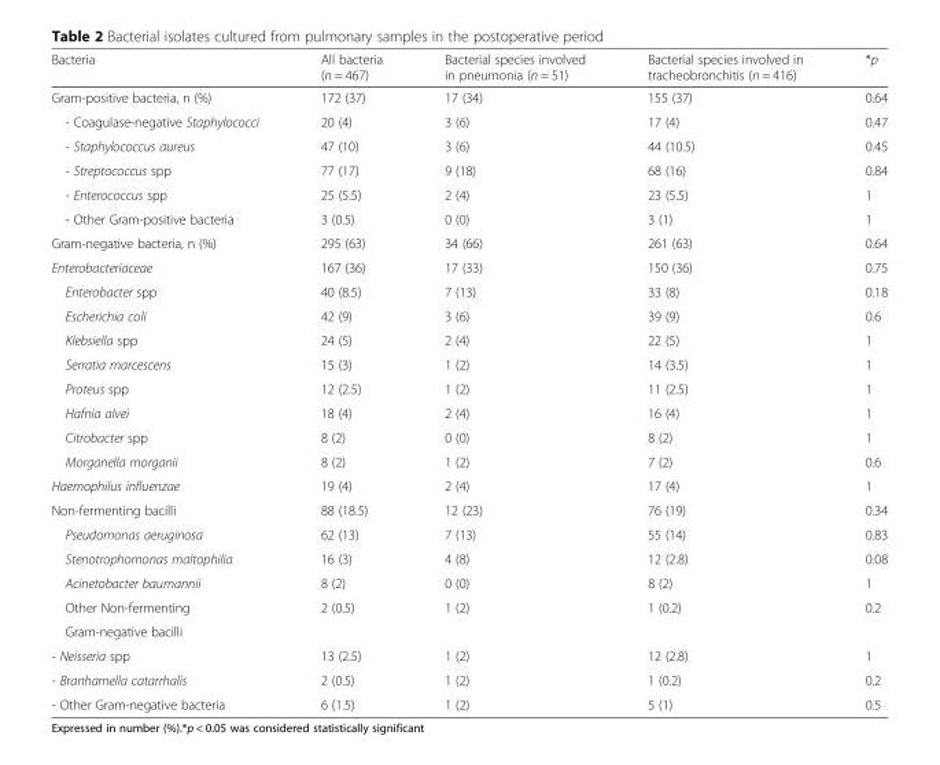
<table><thead><tr><td>Bacteria</td><td>All bacteria (n = 467)</td><td>Bacterial species involved in pneumonia (n = 51)</td><td>Bacterial species involved in tracheobronchitis (n = 416)</td><td>*p</td></tr></thead><tbody><tr><td>Gram-positive bacteria, n (%)</td><td>172 (37)</td><td>17 (34)</td><td>155 (37)</td><td>0.64</td></tr><tr><td>- Coagulase-negative Staphylococci</td><td>20 (4)</td><td>3 (6)</td><td>17 (4)</td><td>0.47</td></tr><tr><td>- Staphylococcus aureus</td><td>47 (10)</td><td>3 (6)</td><td>44 (10.5)</td><td>0.45</td></tr><tr><td>- Streptococcus spp</td><td>77 (17)</td><td>9 (18)</td><td>68 (16)</td><td>0.84</td></tr><tr><td>- Enterococcus spp</td><td>25 (5.5)</td><td>2 (4)</td><td>23 (5.5)</td><td>1</td></tr><tr><td>- Other Gram-positive bacteria</td><td>3 (0.5)</td><td>0 (0)</td><td>3 (1)</td><td>1</td></tr><tr><td>Gram-negative bacteria, n (%)</td><td>295 (63)</td><td>34 (66)</td><td>261 (63)</td><td>0.64</td></tr><tr><td>Enterobacteriaceae</td><td>167 (36)</td><td>17 (33)</td><td>150 (36)</td><td>0.75</td></tr><tr><td>Enterobacter spp</td><td>40 (8.5)</td><td>7 (13)</td><td>33 (8)</td><td>0.18</td></tr><tr><td>Escherichia coli</td><td>42 (9)</td><td>3 (6)</td><td>39 (9)</td><td>0.6</td></tr><tr><td>Klebsiella spp</td><td>24 (5)</td><td>2 (4)</td><td>22 (5)</td><td>1</td></tr><tr><td>Serratia marcescens</td><td>15 (3)</td><td>1 (2)</td><td>14 (3.5)</td><td>1</td></tr><tr><td>Proteus spp</td><td>12 (2.5)</td><td>1 (2)</td><td>11 (2.5)</td><td>1</td></tr><tr><td>Hafnia alvei</td><td>18 (4)</td><td>2 (4)</td><td>16 (4)</td><td>1</td></tr><tr><td>Citrobacter spp</td><td>8 (2)</td><td>0 (0)</td><td>8 (2)</td><td>1</td></tr><tr><td>Morganella morganii</td><td>8 (2)</td><td>1 (2)</td><td>7 (2)</td><td>0.6</td></tr><tr><td>Haemophilus influenzae</td><td>19 (4)</td><td>2 (4)</td><td>17 (4)</td><td>1</td></tr><tr><td>Non-fermenting bacilli</td><td>88 (18.5)</td><td>12 (23)</td><td>76 (19)</td><td>0.34</td></tr><tr><td>Pseudomonas aeruginosa</td><td>62 (13)</td><td>7 (13)</td><td>55 (14)</td><td>0.83</td></tr><tr><td>Stenotrophomonas maltophilia</td><td>16 (3)</td><td>4 (8)</td><td>12 (2.8)</td><td>0.08</td></tr><tr><td>Acinetobacter baumannii</td><td>8 (2)</td><td>0 (0)</td><td>8 (2)</td><td>1</td></tr><tr><td>Other Non-fermenting</td><td>2 (0.5)</td><td>1 (2)</td><td>1 (0.2)</td><td>0.2</td></tr><tr><td colspan="5">Gram-negative bacilli</td></tr><tr><td>- Neisseria spp</td><td>13 (2.5)</td><td>1 (2)</td><td>12 (2.8)</td><td>1</td></tr><tr><td>- Branhamella catarrhalis</td><td>2 (0.5)</td><td>1 (2)</td><td>1 (0.2)</td><td>0.2</td></tr><tr><td>- Other Gram-negative bacteria</td><td>6 (1.5)</td><td>1 (2)</td><td>5 (1)</td><td>0.5</td></tr></tbody></table>